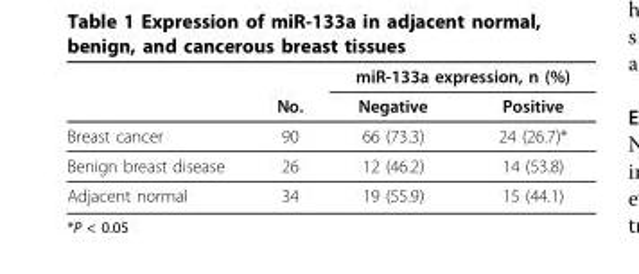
<table><thead><tr><td rowspan="2"></td><td rowspan="2">No.</td><td colspan="2">miR-133a expression, n (%)</td></tr><tr><td>Negative</td><td>Positive</td></tr></thead><tbody><tr><td>Breast cancer</td><td>90</td><td>66 (73.3)</td><td>24 (26.7)*</td></tr><tr><td>Benign breast disease</td><td>26</td><td>12 (46.2)</td><td>14 (53.8)</td></tr><tr><td>Adjacent normal</td><td>34</td><td>19 (55.9)</td><td>15 (44.1)</td></tr></tbody></table>